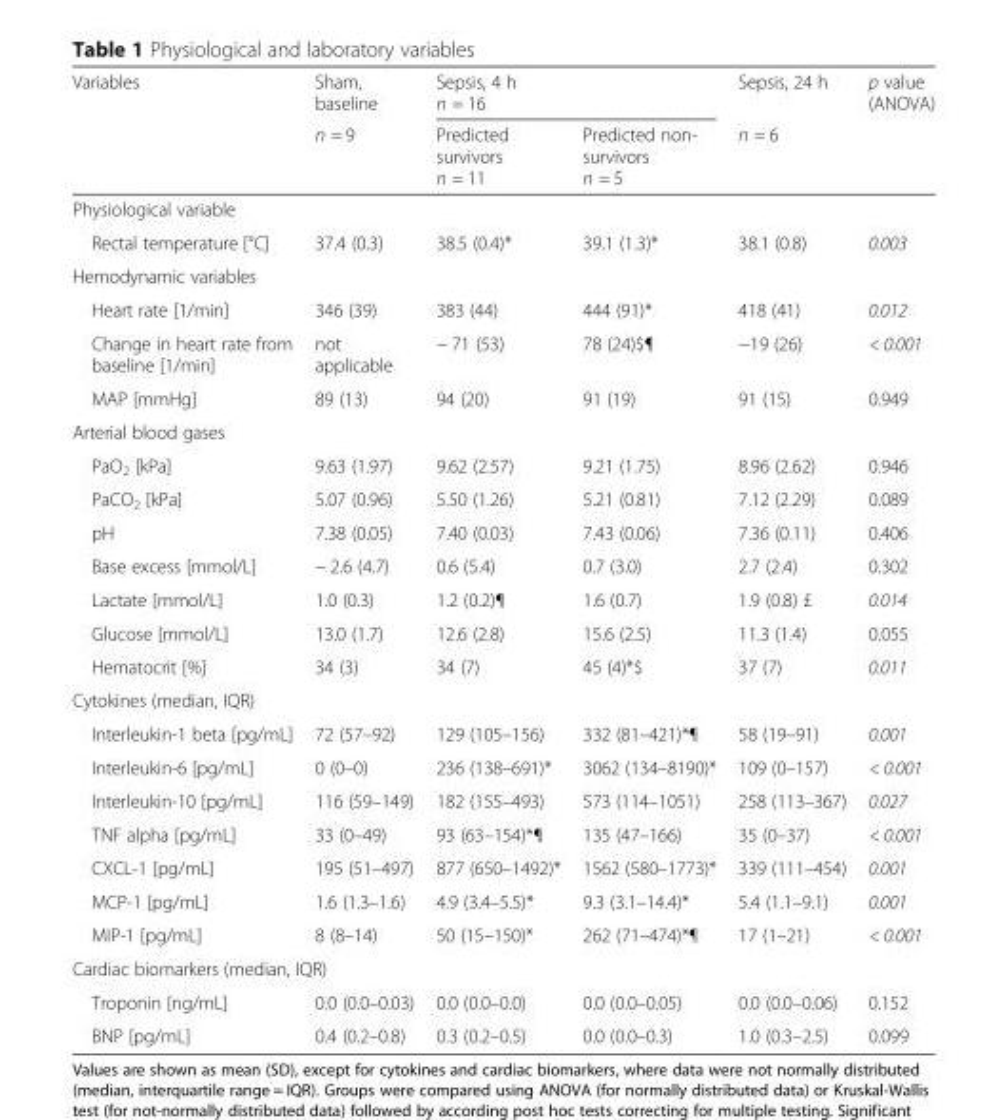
<table><thead><tr><td rowspan="2">Variables</td><td rowspan="2">Sham, baseline n = 9</td><td colspan="2">Sepsis, 4 h n = 16</td><td rowspan="2">Sepsis, 24 h n = 6</td><td rowspan="2">p value (ANOVA)</td></tr><tr><td>Predicted survivors n = 11</td><td>Predicted non- survivors n = 5</td></tr></thead><tbody><tr><td colspan="6">Physiological variable</td></tr><tr><td>Rectal temperature [°C]</td><td>37.4 (0.3)</td><td>38.5 (0.4)*</td><td>39.1 (1.3)*</td><td>38.1 (0.8)</td><td>0.003</td></tr><tr><td colspan="6">Hemodynamic variables</td></tr><tr><td>Heart rate [1/min]</td><td>346 (39)</td><td>383 (44)</td><td>444 (91)*</td><td>418 (41)</td><td>0.012</td></tr><tr><td>Change in heart rate from baseline [1/min]</td><td>not applicable</td><td>− 71 (53)</td><td>78 (24)$¶</td><td>−19 (26)</td><td>&lt; 0.001</td></tr><tr><td>MAP [mmHg]</td><td>89 (13)</td><td>94 (20)</td><td>91 (19)</td><td>91 (15)</td><td>0.949</td></tr><tr><td colspan="6">Arterial blood gases</td></tr><tr><td>PaO<sub>2</sub> [kPa]</td><td>9.63 (1.97)</td><td>9.62 (2.57)</td><td>9.21 (1.75)</td><td>8.96 (2.62)</td><td>0.946</td></tr><tr><td>PaCO<sub>2</sub> [kPa]</td><td>5.07 (0.96)</td><td>5.50 (1.26)</td><td>5.21 (0.81)</td><td>7.12 (2.29)</td><td>0.089</td></tr><tr><td>pH</td><td>7.38 (0.05)</td><td>7.40 (0.03)</td><td>7.43 (0.06)</td><td>7.36 (0.11)</td><td>0.406</td></tr><tr><td>Base excess [mmol/L]</td><td>− 2.6 (4.7)</td><td>0.6 (5.4)</td><td>0.7 (3.0)</td><td>2.7 (2.4)</td><td>0.302</td></tr><tr><td>Lactate [mmol/L]</td><td>1.0 (0.3)</td><td>1.2 (0.2)¶</td><td>1.6 (0.7)</td><td>1.9 (0.8) £</td><td>0.014</td></tr><tr><td>Glucose [mmol/L]</td><td>13.0 (1.7)</td><td>12.6 (2.8)</td><td>15.6 (2.5)</td><td>11.3 (1.4)</td><td>0.055</td></tr><tr><td>Hematocrit [%]</td><td>34 (3)</td><td>34 (7)</td><td>45 (4)*$</td><td>37 (7)</td><td>0.011</td></tr><tr><td colspan="6">Cytokines (median, IQR)</td></tr><tr><td>Interleukin-1 beta [pg/mL]</td><td>72 (57–92)</td><td>129 (105–156)</td><td>332 (81–421)*¶</td><td>58 (19–91)</td><td>0.001</td></tr><tr><td>Interleukin-6 [pg/mL]</td><td>0 (0–0)</td><td>236 (138–691)*</td><td>3062 (134–8190)*</td><td>109 (0–157)</td><td>&lt; 0.001</td></tr><tr><td>Interleukin-10 [pg/mL]</td><td>116 (59–149)</td><td>182 (155–493)</td><td>573 (114–1051)</td><td>258 (113–367)</td><td>0.027</td></tr><tr><td>TNF alpha [pg/mL]</td><td>33 (0–49)</td><td>93 (63–154)*¶</td><td>135 (47–166)</td><td>35 (0–37)</td><td>&lt; 0.001</td></tr><tr><td>CXCL-1 [pg/mL]</td><td>195 (51–497)</td><td>877 (650–1492)*</td><td>1562 (580–1773)*</td><td>339 (111–454)</td><td>0.001</td></tr><tr><td>MCP-1 [pg/mL]</td><td>1.6 (1.3–1.6)</td><td>4.9 (3.4–5.5)*</td><td>9.3 (3.1–14.4)*</td><td>5.4 (1.1–9.1)</td><td>0.001</td></tr><tr><td>MIP-1 [pg/mL]</td><td>8 (8–14)</td><td>50 (15–150)*</td><td>262 (71–474)*¶</td><td>17 (1–21)</td><td>&lt; 0.001</td></tr><tr><td colspan="6">Cardiac biomarkers (median, IQR)</td></tr><tr><td>Troponin [ng/mL]</td><td>0.0 (0.0–0.03)</td><td>0.0 (0.0–0.0)</td><td>0.0 (0.0–0.05)</td><td>0.0 (0.0–0.06)</td><td>0.152</td></tr><tr><td>BNP [pg/mL]</td><td>0.4 (0.2–0.8)</td><td>0.3 (0.2–0.5)</td><td>0.0 (0.0–0.3)</td><td>1.0 (0.3–2.5)</td><td>0.099</td></tr></tbody></table>